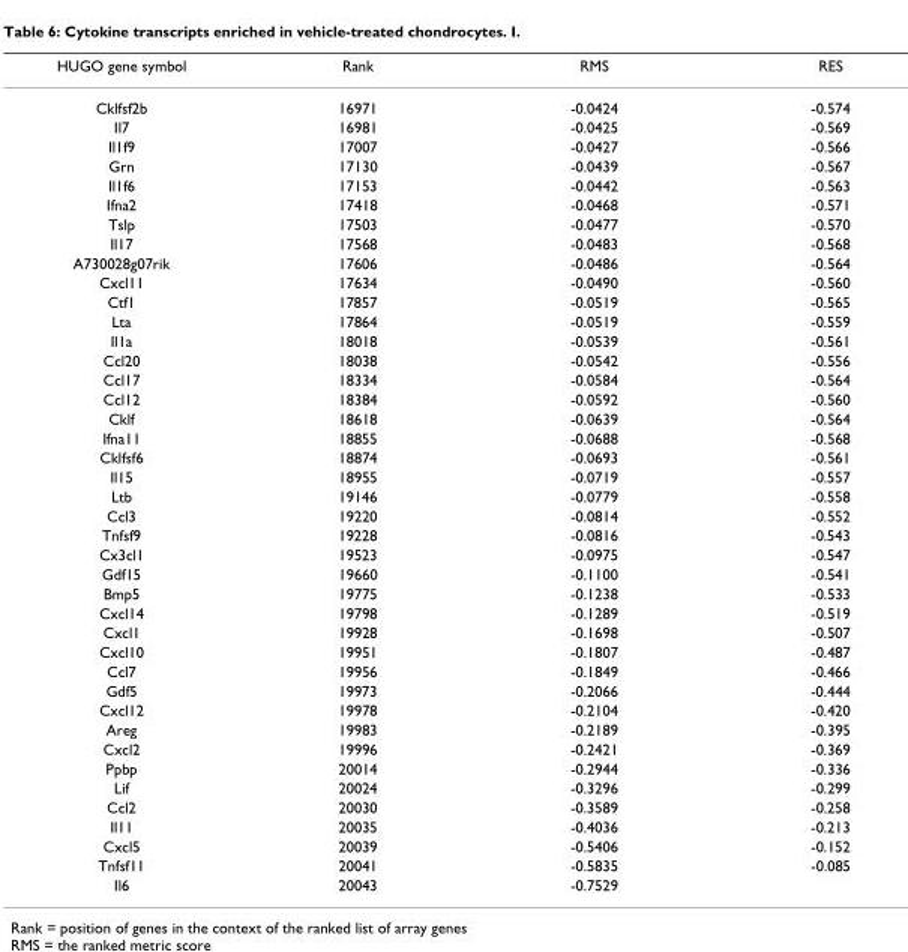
<table><thead><tr><td>HUGO gene symbol</td><td>Rank</td><td>RMS</td><td>RES</td></tr></thead><tbody><tr><td>Cklfsf2b</td><td>16971</td><td>-0.0424</td><td>-0.574</td></tr><tr><td>Il7</td><td>16981</td><td>-0.0425</td><td>-0.569</td></tr><tr><td>Il1f9</td><td>17007</td><td>-0.0427</td><td>-0.566</td></tr><tr><td>Grn</td><td>17130</td><td>-0.0439</td><td>-0.567</td></tr><tr><td>Il1f6</td><td>17153</td><td>-0.0442</td><td>-0.563</td></tr><tr><td>Ifna2</td><td>17418</td><td>-0.0468</td><td>-0.571</td></tr><tr><td>Tslp</td><td>17503</td><td>-0.0477</td><td>-0.570</td></tr><tr><td>Il17</td><td>17568</td><td>-0.0483</td><td>-0.568</td></tr><tr><td>A730028g07rik</td><td>17606</td><td>-0.0486</td><td>-0.564</td></tr><tr><td>Cxcl11</td><td>17634</td><td>-0.0490</td><td>-0.560</td></tr><tr><td>Ctf1</td><td>17857</td><td>-0.0519</td><td>-0.565</td></tr><tr><td>Lta</td><td>17864</td><td>-0.0519</td><td>-0.559</td></tr><tr><td>Il1a</td><td>18018</td><td>-0.0539</td><td>-0.561</td></tr><tr><td>Ccl20</td><td>18038</td><td>-0.0542</td><td>-0.556</td></tr><tr><td>Ccl17</td><td>18334</td><td>-0.0584</td><td>-0.564</td></tr><tr><td>Ccl12</td><td>18384</td><td>-0.0592</td><td>-0.560</td></tr><tr><td>Cklf</td><td>18618</td><td>-0.0639</td><td>-0.564</td></tr><tr><td>Ifna11</td><td>18855</td><td>-0.0688</td><td>-0.568</td></tr><tr><td>Cklfsf6</td><td>18874</td><td>-0.0693</td><td>-0.561</td></tr><tr><td>Il15</td><td>18955</td><td>-0.0719</td><td>-0.557</td></tr><tr><td>Ltb</td><td>19146</td><td>-0.0779</td><td>-0.558</td></tr><tr><td>Ccl3</td><td>19220</td><td>-0.0814</td><td>-0.552</td></tr><tr><td>Tnfsf9</td><td>19228</td><td>-0.0816</td><td>-0.543</td></tr><tr><td>Cx3cl1</td><td>19523</td><td>-0.0975</td><td>-0.547</td></tr><tr><td>Gdf15</td><td>19660</td><td>-0.1100</td><td>-0.541</td></tr><tr><td>Bmp5</td><td>19775</td><td>-0.1238</td><td>-0.533</td></tr><tr><td>Cxcl14</td><td>19798</td><td>-0.1289</td><td>-0.519</td></tr><tr><td>Cxcl1</td><td>19928</td><td>-0.1698</td><td>-0.507</td></tr><tr><td>Cxcl10</td><td>19951</td><td>-0.1807</td><td>-0.487</td></tr><tr><td>Ccl7</td><td>19956</td><td>-0.1849</td><td>-0.466</td></tr><tr><td>Gdf5</td><td>19973</td><td>-0.2066</td><td>-0.444</td></tr><tr><td>Cxcl12</td><td>19978</td><td>-0.2104</td><td>-0.420</td></tr><tr><td>Areg</td><td>19983</td><td>-0.2189</td><td>-0.395</td></tr><tr><td>Cxcl2</td><td>19996</td><td>-0.2421</td><td>-0.369</td></tr><tr><td>Ppbp</td><td>20014</td><td>-0.2944</td><td>-0.336</td></tr><tr><td>Lif</td><td>20024</td><td>-0.3296</td><td>-0.299</td></tr><tr><td>Ccl2</td><td>20030</td><td>-0.3589</td><td>-0.258</td></tr><tr><td>Il11</td><td>20035</td><td>-0.4036</td><td>-0.213</td></tr><tr><td>Cxcl5</td><td>20039</td><td>-0.5406</td><td>-0.152</td></tr><tr><td>Tnfsf11</td><td>20041</td><td>-0.5835</td><td>-0.085</td></tr><tr><td>Il6</td><td>20043</td><td>-0.7529</td><td></td></tr></tbody></table>